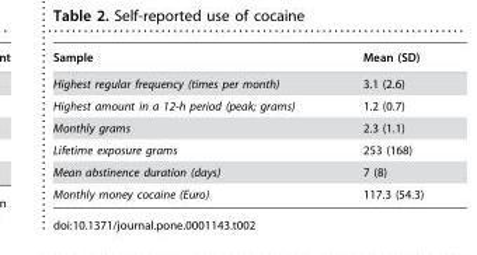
<table><thead><tr><td>Sample</td><td>Mean (SD)</td></tr></thead><tbody><tr><td>Highest regular frequency (times per month)</td><td>3.1 (2.6)</td></tr><tr><td>Highest amount in a 12-h period (peak; grams)</td><td>1.2 (0.7)</td></tr><tr><td>Monthly grams</td><td>2.3 (1.1)</td></tr><tr><td>Lifetime exposure grams</td><td>253 (168)</td></tr><tr><td>Mean abstinence duration (days)</td><td>7 (8)</td></tr><tr><td>Monthly money cocaine (Euro)</td><td>117.3 (54.3)</td></tr></tbody></table>